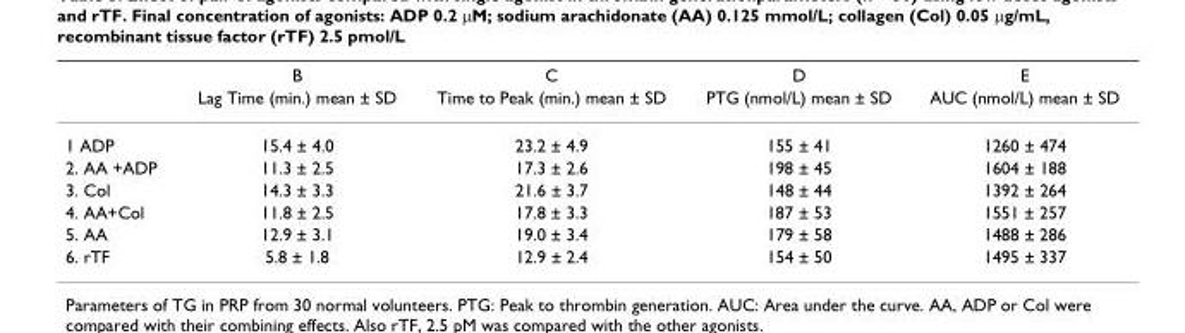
<table><thead><tr><td rowspan="2"></td><td rowspan="2">B Lag Time (min.) mean ± SD</td><td rowspan="2">C Time to Peak (min.) mean ± SD</td><td rowspan="2">D PTG (nmol/L) mean ± SD</td><td rowspan="2">E AUC (nmol/L) mean ± SD</td></tr><tr></tr></thead><tbody><tr><td>1 ADP</td><td>15.4 ± 4.0</td><td>23.2 ± 4.9</td><td>155 ± 41</td><td>1260 ± 474</td></tr><tr><td>2. AA +ADP</td><td>11.3 ± 2.5</td><td>17.3 ± 2.6</td><td>198 ± 45</td><td>1604 ± 188</td></tr><tr><td>3. Col</td><td>14.3 ± 3.3</td><td>21.6 ± 3.7</td><td>148 ± 44</td><td>1392 ± 264</td></tr><tr><td>4. AA+Col</td><td>11.8 ± 2.5</td><td>17.8 ± 3.3</td><td>187 ± 53</td><td>1551 ± 257</td></tr><tr><td>5. AA</td><td>12.9 ± 3.1</td><td>19.0 ± 3.4</td><td>179 ± 58</td><td>1488 ± 286</td></tr><tr><td>6. rTF</td><td>5.8 ± 1.8</td><td>12.9 ± 2.4</td><td>154 ± 50</td><td>1495 ± 337</td></tr></tbody></table>